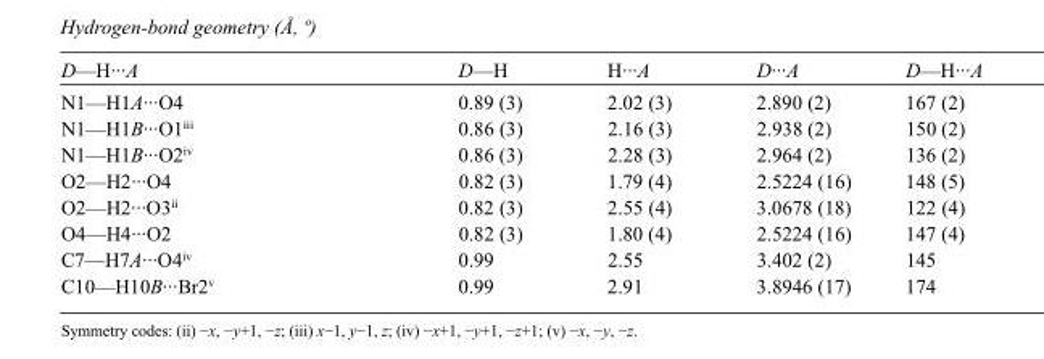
<table><tbody><tr><td>D—H···A</td><td>D—H</td><td>H···A</td><td>D···A</td><td>D—H···A</td></tr><tr><td>N1—H1A···O4</td><td>0.89 (3)</td><td>2.02 (3)</td><td>2.890 (2)</td><td>167 (2)</td></tr><tr><td>N1—H1B···O1<sup>iii</sup></td><td>0.86 (3)</td><td>2.16 (3)</td><td>2.938 (2)</td><td>150 (2)</td></tr><tr><td>N1—H1B···O2<sup>iv</sup></td><td>0.86 (3)</td><td>2.28 (3)</td><td>2.964 (2)</td><td>136 (2)</td></tr><tr><td>O2—H2···O4</td><td>0.82 (3)</td><td>1.79 (4)</td><td>2.5224 (16)</td><td>148 (5)</td></tr><tr><td>O2—H2···O3<sup>ii</sup></td><td>0.82 (3)</td><td>2.55 (4)</td><td>3.0678 (18)</td><td>122 (4)</td></tr><tr><td>O4—H4···O2</td><td>0.82 (3)</td><td>1.80 (4)</td><td>2.5224 (16)</td><td>147 (4)</td></tr><tr><td>C7—H7A···O4<sup>iv</sup></td><td>0.99</td><td>2.55</td><td>3.402 (2)</td><td>145</td></tr><tr><td>C10—H10B···Br2<sup>v</sup></td><td>0.99</td><td>2.91</td><td>3.8946 (17)</td><td>174</td></tr></tbody></table>